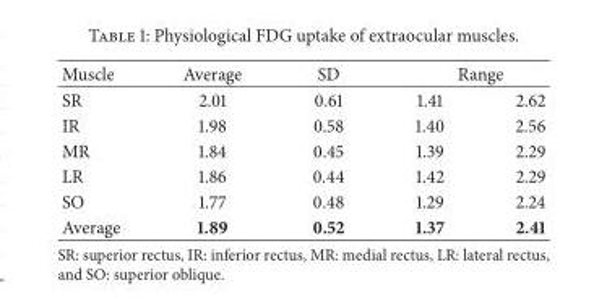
<table><thead><tr><td rowspan="2">Muscle SR</td><td rowspan="2">Average 2.01</td><td rowspan="2">SD 0.61</td><td colspan="2">Range</td></tr><tr><td>1.41</td><td>2.62</td></tr></thead><tbody><tr><td>IR</td><td>1.98</td><td>0.58</td><td>1.40</td><td>2.56</td></tr><tr><td>MR</td><td>1.84</td><td>0.45</td><td>1.39</td><td>2.29</td></tr><tr><td>LR</td><td>1.86</td><td>0.44</td><td>1.42</td><td>2.29</td></tr><tr><td>SO</td><td>1.77</td><td>0.48</td><td>1.29</td><td>2.24</td></tr><tr><td>Average</td><td>1.89</td><td>0.52</td><td>1.37</td><td>2.41</td></tr></tbody></table>